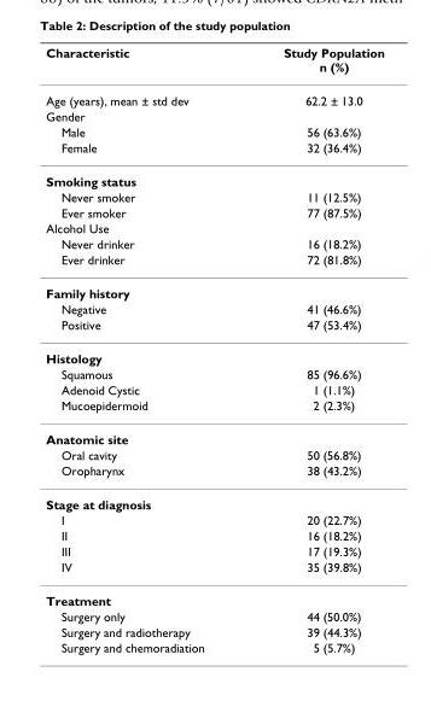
<table><thead><tr><td>Characteristic</td><td>Study Population n (%)</td></tr></thead><tbody><tr><td>Age (years), mean ± std dev</td><td>62.2 ± 13.0</td></tr><tr><td colspan="2">Gender</td></tr><tr><td>Male</td><td>56 (63.6%)</td></tr><tr><td>Female</td><td>32 (36.4%)</td></tr><tr><td colspan="2">Smoking status</td></tr><tr><td>Never smoker</td><td>11 (12.5%)</td></tr><tr><td>Ever smoker</td><td>77 (87.5%)</td></tr><tr><td colspan="2">Alcohol Use</td></tr><tr><td>Never drinker</td><td>16 (18.2%)</td></tr><tr><td>Ever drinker</td><td>72 (81.8%)</td></tr><tr><td colspan="2">Family history</td></tr><tr><td>Negative</td><td>41 (46.6%)</td></tr><tr><td>Positive</td><td>47 (53.4%)</td></tr><tr><td colspan="2">Histology</td></tr><tr><td>Squamous</td><td>85 (96.6%)</td></tr><tr><td>Adenoid Cystic</td><td>1 (1.1%)</td></tr><tr><td>Mucoepidermoid</td><td>2 (2.3%)</td></tr><tr><td colspan="2">Anatomic site</td></tr><tr><td>Oral cavity</td><td>50 (56.8%)</td></tr><tr><td>Oropharynx</td><td>38 (43.2%)</td></tr><tr><td colspan="2">Stage at diagnosis</td></tr><tr><td>I</td><td>20 (22.7%)</td></tr><tr><td>II</td><td>16 (18.2%)</td></tr><tr><td>III</td><td>17 (19.3%)</td></tr><tr><td>IV</td><td>35 (39.8%)</td></tr><tr><td colspan="2">Treatment</td></tr><tr><td>Surgery only</td><td>44 (50.0%)</td></tr><tr><td>Surgery and radiotherapy</td><td>39 (44.3%)</td></tr><tr><td>Surgery and chemoradiation</td><td>5 (5.7%)</td></tr></tbody></table>